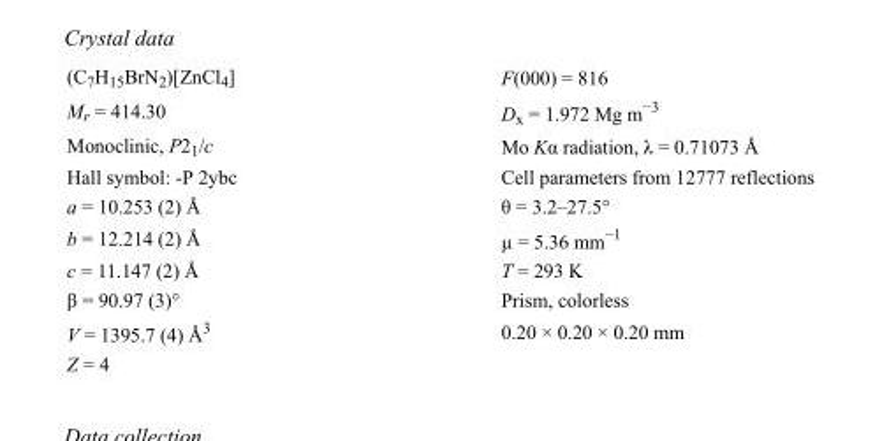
<table><tbody><tr><td>(C<sub>7</sub>H<sub>15</sub>BrN<sub>2</sub>)[ZnCl<sub>4</sub>]</td><td>F(000) = 816</td></tr><tr><td>M<sub>r</sub> = 414.30</td><td>D<sub>x</sub> = 1.972 Mg m<sup>−3</sup></td></tr><tr><td>Monoclinic, P2<sub>1</sub>/c</td><td>Mo Kα radiation, λ = 0.71073 Å</td></tr><tr><td>Hall symbol: -P 2ybc</td><td>Cell parameters from 12777 reflections</td></tr><tr><td>a = 10.253 (2) Å</td><td>θ = 3.2–27.5°</td></tr><tr><td>b = 12.214 (2) Å</td><td>µ = 5.36 mm<sup>−1</sup></td></tr><tr><td>c = 11.147 (2) Å</td><td>T = 293 K</td></tr><tr><td>β = 90.97 (3)°</td><td>Prism, colorless</td></tr><tr><td>V = 1395.7 (4) Å<sup>3</sup></td><td>0.20 × 0.20 × 0.20 mm</td></tr><tr><td>Z = 4</td><td></td></tr></tbody></table>